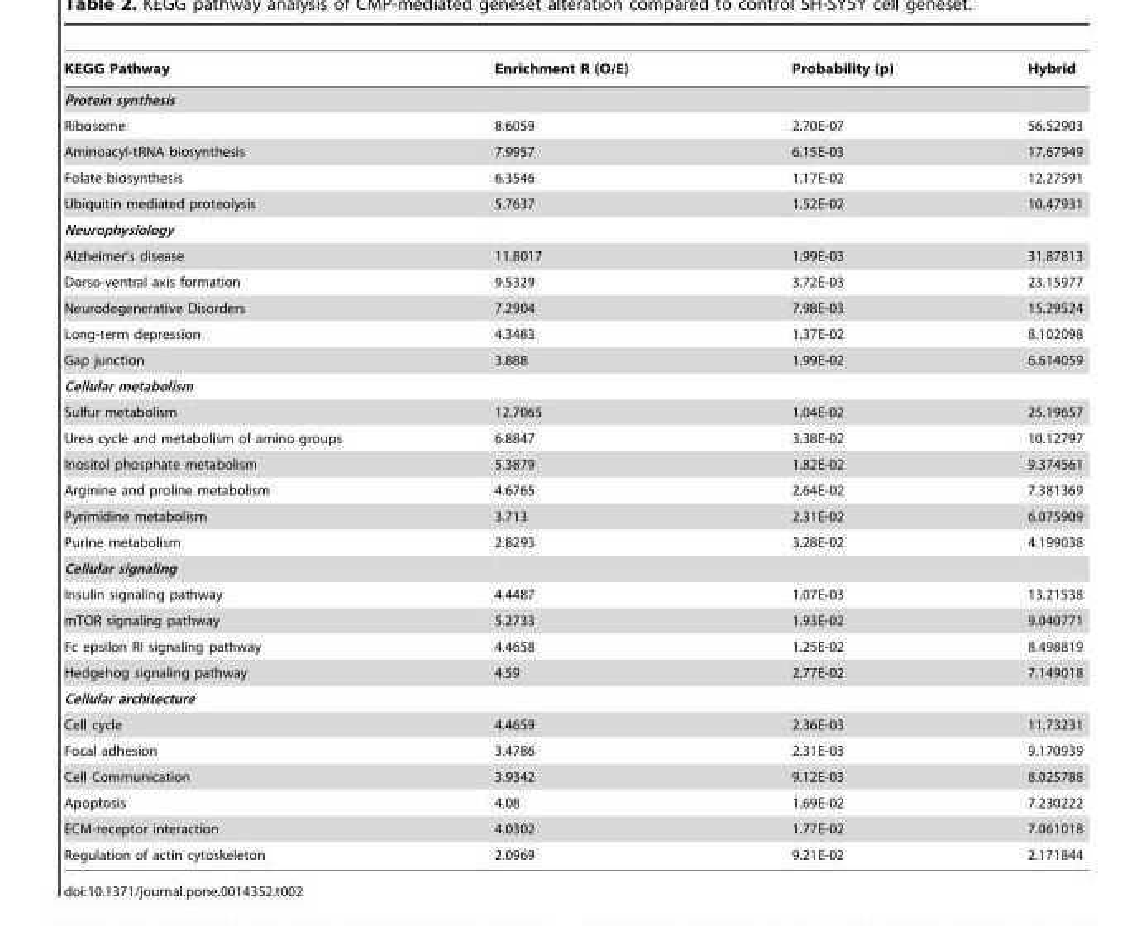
<table><thead><tr><td>KEGG Pathway</td><td>Enrichment R (O/E)</td><td>Probability (p)</td><td>Hybrid</td></tr></thead><tbody><tr><td colspan="4">Protein synthesis</td></tr><tr><td>Ribosome</td><td>8.6059</td><td>2.70E-07</td><td>56.52903</td></tr><tr><td>Aminoacyl-tRNA biosynthesis</td><td>7.9957</td><td>6.15E-03</td><td>17.67949</td></tr><tr><td>Folate biosynthesis</td><td>6.3546</td><td>1.17E-02</td><td>12.27591</td></tr><tr><td>Ubiquitin mediated proteolysis</td><td>5.7637</td><td>1.52E-02</td><td>10.47931</td></tr><tr><td colspan="4">Neurophysiology</td></tr><tr><td>Alzheimer’s disease</td><td>11.8017</td><td>1.99E-03</td><td>31.87813</td></tr><tr><td>Dorso-ventral axis formation</td><td>9.5329</td><td>3.72E-03</td><td>23.15977</td></tr><tr><td>Neurodegenerative Disorders</td><td>7.2904</td><td>7.98E-03</td><td>15.29524</td></tr><tr><td>Long-term depression</td><td>4.3483</td><td>1.37E-02</td><td>8.102098</td></tr><tr><td>Gap junction</td><td>3.888</td><td>1.99E-02</td><td>6.614059</td></tr><tr><td colspan="4">Cellular metabolism</td></tr><tr><td>Sulfur metabolism</td><td>12.7065</td><td>1.04E-02</td><td>25.19657</td></tr><tr><td>Urea cycle and metabolism of amino groups</td><td>6.8847</td><td>3.38E-02</td><td>10.12797</td></tr><tr><td>Inositol phosphate metabolism</td><td>5.3879</td><td>1.82E-02</td><td>9.374561</td></tr><tr><td>Arginine and proline metabolism</td><td>4.6765</td><td>2.64E-02</td><td>7.381369</td></tr><tr><td>Pyrimidine metabolism</td><td>3.713</td><td>2.31E-02</td><td>6.075909</td></tr><tr><td>Purine metabolism</td><td>2.8293</td><td>3.28E-02</td><td>4.199038</td></tr><tr><td colspan="4">Cellular signaling</td></tr><tr><td>Insulin signaling pathway</td><td>4.4487</td><td>1.07E-03</td><td>13.21538</td></tr><tr><td>mTOR signaling pathway</td><td>5.2733</td><td>1.93E-02</td><td>9.040771</td></tr><tr><td>Fc epsilon RI signaling pathway</td><td>4.4658</td><td>1.25E-02</td><td>8.498819</td></tr><tr><td>Hedgehog signaling pathway</td><td>4.59</td><td>2.77E-02</td><td>7.149018</td></tr><tr><td colspan="4">Cellular architecture</td></tr><tr><td>Cell cycle</td><td>4.4659</td><td>2.36E-03</td><td>11.73231</td></tr><tr><td>Focal adhesion</td><td>3.4786</td><td>2.31E-03</td><td>9.170939</td></tr><tr><td>Cell Communication</td><td>3.9342</td><td>9.12E-03</td><td>8.025788</td></tr><tr><td>Apoptosis</td><td>4.08</td><td>1.69E-02</td><td>7.230222</td></tr><tr><td>ECM-receptor interaction</td><td>4.0302</td><td>1.77E-02</td><td>7.061018</td></tr><tr><td>Regulation of actin cytoskeleton</td><td>2.0969</td><td>9.21E-02</td><td>2.171844</td></tr></tbody></table>